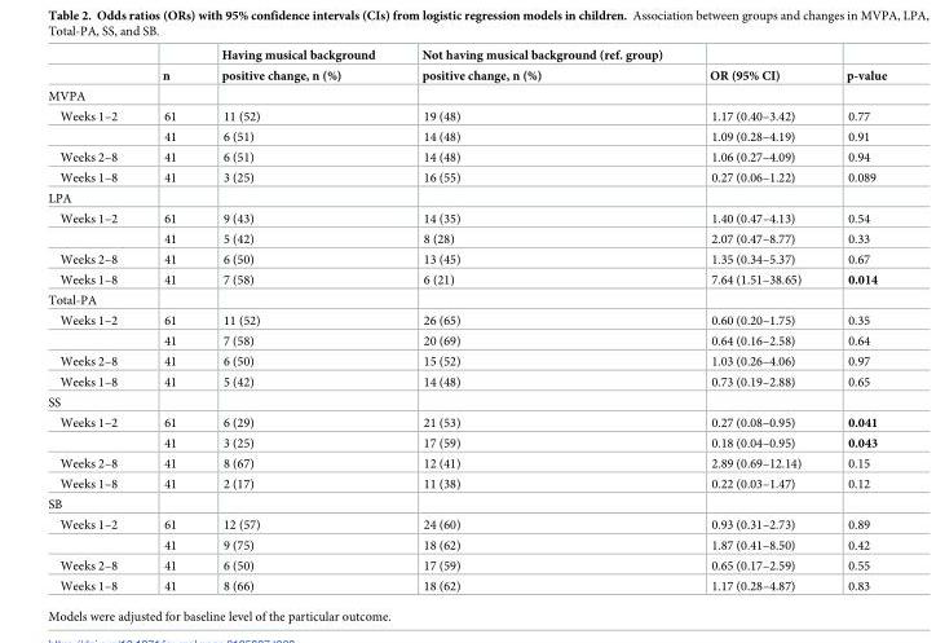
<table><thead><tr><td rowspan="2"></td><td rowspan="2">n</td><td rowspan="2">Having musical background positive change, n (%)</td><td rowspan="2">Not having musical background (ref. group) positive change, n (%)</td><td rowspan="2">OR (95% CI)</td><td rowspan="2">p-value</td></tr><tr></tr></thead><tbody><tr><td colspan="6">MVPA</td></tr><tr><td rowspan="2">Weeks 1–2</td><td>61</td><td>11 (52)</td><td>19 (48)</td><td>1.17 (0.40–3.42)</td><td>0.77</td></tr><tr><td>41</td><td>6 (51)</td><td>14 (48)</td><td>1.09 (0.28–4.19)</td><td>0.91</td></tr><tr><td>Weeks 2–8</td><td>41</td><td>6 (51)</td><td>14 (48)</td><td>1.06 (0.27–4.09)</td><td>0.94</td></tr><tr><td>Weeks 1–8</td><td>41</td><td>3 (25)</td><td>16 (55)</td><td>0.27 (0.06–1.22)</td><td>0.089</td></tr><tr><td colspan="6">LPA</td></tr><tr><td rowspan="2">Weeks 1–2</td><td>61</td><td>9 (43)</td><td>14 (35)</td><td>1.40 (0.47–4.13)</td><td>0.54</td></tr><tr><td>41</td><td>5 (42)</td><td>8 (28)</td><td>2.07 (0.47–8.77)</td><td>0.33</td></tr><tr><td>Weeks 2–8</td><td>41</td><td>6 (50)</td><td>13 (45)</td><td>1.35 (0.34–5.37)</td><td>0.67</td></tr><tr><td>Weeks 1–8</td><td>41</td><td>7 (58)</td><td>6 (21)</td><td>7.64 (1.51–38.65)</td><td>0.014</td></tr><tr><td colspan="6">Total-PA</td></tr><tr><td rowspan="2">Weeks 1–2</td><td>61</td><td>11 (52)</td><td>26 (65)</td><td>0.60 (0.20–1.75)</td><td>0.35</td></tr><tr><td>41</td><td>7 (58)</td><td>20 (69)</td><td>0.64 (0.16–2.58)</td><td>0.64</td></tr><tr><td>Weeks 2–8</td><td>41</td><td>6 (50)</td><td>15 (52)</td><td>1.03 (0.26–4.06)</td><td>0.97</td></tr><tr><td>Weeks 1–8</td><td>41</td><td>5 (42)</td><td>14 (48)</td><td>0.73 (0.19–2.88)</td><td>0.65</td></tr><tr><td colspan="6">SS</td></tr><tr><td rowspan="2">Weeks 1–2</td><td>61</td><td>6 (29)</td><td>21 (53)</td><td>0.27 (0.08–0.95)</td><td>0.041</td></tr><tr><td>41</td><td>3 (25)</td><td>17 (59)</td><td>0.18 (0.04–0.95)</td><td>0.043</td></tr><tr><td>Weeks 2–8</td><td>41</td><td>8 (67)</td><td>12 (41)</td><td>2.89 (0.69–12.14)</td><td>0.15</td></tr><tr><td>Weeks 1–8</td><td>41</td><td>2 (17)</td><td>11 (38)</td><td>0.22 (0.03–1.47)</td><td>0.12</td></tr><tr><td colspan="6">SB</td></tr><tr><td rowspan="2">Weeks 1–2</td><td>61</td><td>12 (57)</td><td>24 (60)</td><td>0.93 (0.31–2.73)</td><td>0.89</td></tr><tr><td>41</td><td>9 (75)</td><td>18 (62)</td><td>1.87 (0.41–8.50)</td><td>0.42</td></tr><tr><td>Weeks 2–8</td><td>41</td><td>6 (50)</td><td>17 (59)</td><td>0.65 (0.17–2.59)</td><td>0.55</td></tr><tr><td>Weeks 1–8</td><td>41</td><td>8 (66)</td><td>18 (62)</td><td>1.17 (0.28–4.87)</td><td>0.83</td></tr></tbody></table>